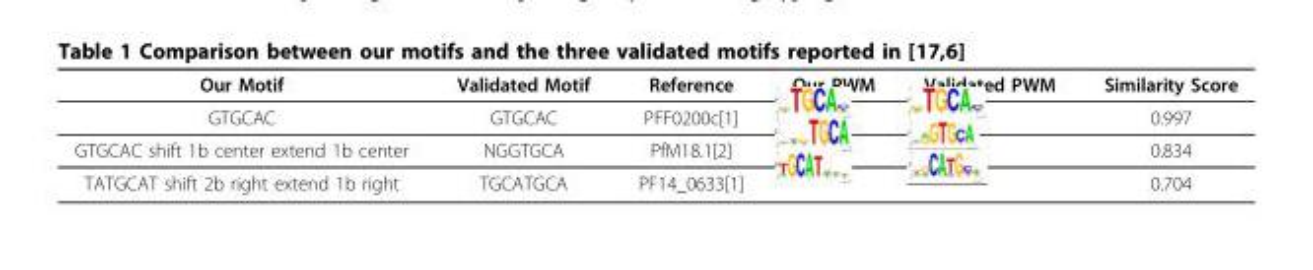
<table><thead><tr><td>Our Motif</td><td>Validated Motif</td><td>Reference</td><td>Our PWM</td><td>Validated PWM</td><td>Similarity Score</td></tr></thead><tbody><tr><td>GTGCAC</td><td>GTGCAC</td><td>PFF0200c[1]</td><td></td><td></td><td>0.997</td></tr><tr><td>GTGCAC shift 1b center extend 1b center</td><td>NGGTGCA</td><td>PfM18.1[2]</td><td></td><td></td><td>0.834</td></tr><tr><td>TATGCAT shift 2b right extend 1b right</td><td>TGCATGCA</td><td>PF14_0633[1]</td><td></td><td></td><td>0.704</td></tr></tbody></table>